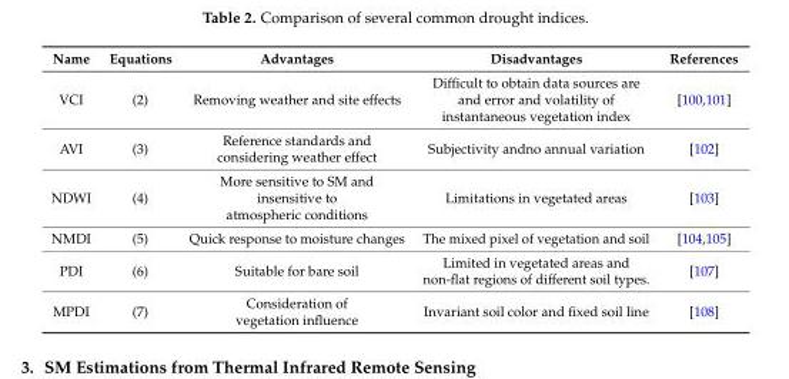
<table><thead><tr><td>Name</td><td>Equations</td><td>Advantages</td><td>Disadvantages</td><td>References</td></tr></thead><tbody><tr><td>VCI</td><td>(2)</td><td>Removing weather and site effects</td><td>Difficult to obtain data sources are and error and volatility of instantaneous vegetation index</td><td>[100,101]</td></tr><tr><td>AVI</td><td>(3)</td><td>Reference standards and considering weather effect</td><td>Subjectivity andno annual variation</td><td>[102]</td></tr><tr><td>NDWI</td><td>(4)</td><td>More sensitive to SM and insensitive to atmospheric conditions</td><td>Limitations in vegetated areas</td><td>[103]</td></tr><tr><td>NMDI</td><td>(5)</td><td>Quick response to moisture changes</td><td>The mixed pixel of vegetation and soil</td><td>[104,105]</td></tr><tr><td>PDI</td><td>(6)</td><td>Suitable for bare soil</td><td>Limited in vegetated areas and non-flat regions of different soil types.</td><td>[107]</td></tr><tr><td>MPDI</td><td>(7)</td><td>Consideration of vegetation influence</td><td>Invariant soil color and fixed soil line</td><td>[108]</td></tr></tbody></table>